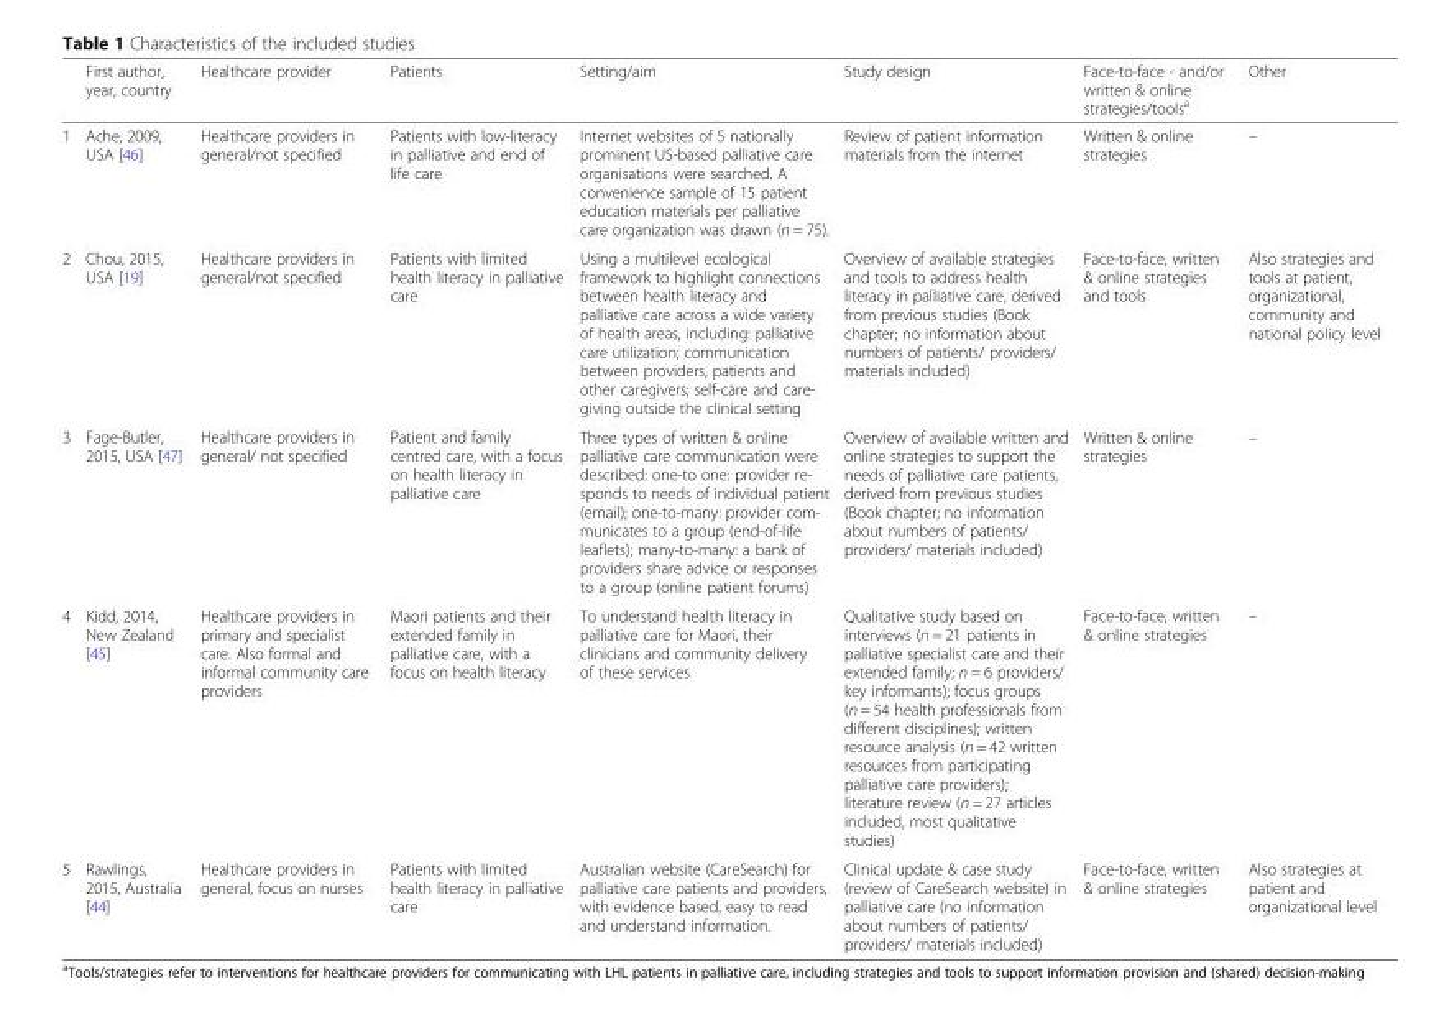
<table><thead><tr><td></td><td>First author, year, country</td><td>Healthcare provider</td><td>Patients</td><td>Setting/aim</td><td>Study design</td><td>Face-to-face - and/or written &amp; online strategies/tools<sup>a</sup></td><td>Other</td></tr></thead><tbody><tr><td>1</td><td>Ache, 2009, USA [46]</td><td>Healthcare providers in general/not specified</td><td>Patients with low-literacy in palliative and end of life care</td><td>Internet websites of 5 nationally prominent US-based palliative care organisations were searched. A convenience sample of 15 patient education materials per palliative care organization was drawn (n = 75).</td><td>Review of patient information materials from the internet</td><td>Written &amp; online strategies</td><td>–</td></tr><tr><td>2</td><td>Chou, 2015, USA [19]</td><td>Healthcare providers in general/not specified</td><td>Patients with limited health literacy in palliative care</td><td>Using a multilevel ecological framework to highlight connections between health literacy and palliative care across a wide variety of health areas, including: palliative care utilization; communication between providers, patients and other caregivers; self-care and care- giving outside the clinical setting</td><td>Overview of available strategies and tools to address health literacy in palliative care, derived from previous studies (Book chapter; no information about numbers of patients/ providers/ materials included)</td><td>Face-to-face, written &amp; online strategies and tools</td><td>Also strategies and tools at patient, organizational, community and national policy level</td></tr><tr><td>3</td><td>Fage-Butler, 2015, USA [47]</td><td>Healthcare providers in general/ not specified</td><td>Patient and family centred care, with a focus on health literacy in palliative care</td><td>Three types of written &amp; online palliative care communication were described: one-to one: provider re- sponds to needs of individual patient (email); one-to-many: provider com- municates to a group (end-of-life leaflets); many-to-many: a bank of providers share advice or responses to a group (online patient forums)</td><td>Overview of available written and online strategies to support the needs of palliative care patients, derived from previous studies (Book chapter; no information about numbers of patients/ providers/ materials included)</td><td>Written &amp; online strategies</td><td>–</td></tr><tr><td>4</td><td>Kidd, 2014, New Zealand [45]</td><td>Healthcare providers in primary and specialist care. Also formal and informal community care providers</td><td>Maori patients and their extended family in palliative care, with a focus on health literacy</td><td>To understand health literacy in palliative care for Maori, their clinicians and community delivery of these services</td><td>Qualitative study based on interviews (n = 21 patients in palliative specialist care and their extended family; n = 6 providers/ key informants); focus groups (n = 54 health professionals from different disciplines); written resource analysis (n = 42 written resources from participating palliative care providers); literature review (n = 27 articles included, most qualitative studies)</td><td>Face-to-face, written &amp; online strategies</td><td>–</td></tr><tr><td>5</td><td>Rawlings, 2015, Australia [44]</td><td>Healthcare providers in general, focus on nurses</td><td>Patients with limited health literacy in palliative care</td><td>Australian website (CareSearch) for palliative care patients and providers, with evidence based, easy to read and understand information.</td><td>Clinical update &amp; case study (review of CareSearch website) in palliative care (no information about numbers of patients/ providers/ materials included)</td><td>Face-to-face, written &amp; online strategies</td><td>Also strategies at patient and organizational level</td></tr></tbody></table>